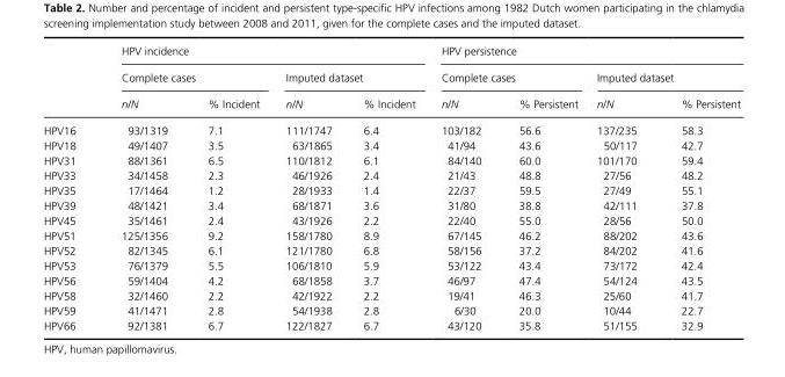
<table><thead><tr><td rowspan="3"></td><td colspan="4">HPV incidence</td><td colspan="4">HPV persistence</td></tr><tr><td colspan="2">Complete cases</td><td colspan="2">Imputed dataset</td><td colspan="2">Complete cases</td><td colspan="2">Imputed dataset</td></tr><tr><td>n/N</td><td>% Incident</td><td>n/N</td><td>% Incident</td><td>n/N</td><td>% Persistent</td><td>n/N</td><td>% Persistent</td></tr></thead><tbody><tr><td>HPV16</td><td>93/1319</td><td>7.1</td><td>111/1747</td><td>6.4</td><td>103/182</td><td>56.6</td><td>137/235</td><td>58.3</td></tr><tr><td>HPV18</td><td>49/1407</td><td>3.5</td><td>63/1865</td><td>3.4</td><td>41/94</td><td>43.6</td><td>50/117</td><td>42.7</td></tr><tr><td>HPV31</td><td>88/1361</td><td>6.5</td><td>110/1812</td><td>6.1</td><td>84/140</td><td>60.0</td><td>101/170</td><td>59.4</td></tr><tr><td>HPV33</td><td>34/1458</td><td>2.3</td><td>46/1926</td><td>2.4</td><td>21/43</td><td>48.8</td><td>27/56</td><td>48.2</td></tr><tr><td>HPV35</td><td>17/1464</td><td>1.2</td><td>28/1933</td><td>1.4</td><td>22/37</td><td>59.5</td><td>27/49</td><td>55.1</td></tr><tr><td>HPV39</td><td>48/1421</td><td>3.4</td><td>68/1871</td><td>3.6</td><td>31/80</td><td>38.8</td><td>42/111</td><td>37.8</td></tr><tr><td>HPV45</td><td>35/1461</td><td>2.4</td><td>43/1926</td><td>2.2</td><td>22/40</td><td>55.0</td><td>28/56</td><td>50.0</td></tr><tr><td>HPV51</td><td>125/1356</td><td>9.2</td><td>158/1780</td><td>8.9</td><td>67/145</td><td>46.2</td><td>88/202</td><td>43.6</td></tr><tr><td>HPV52</td><td>82/1345</td><td>6.1</td><td>121/1780</td><td>6.8</td><td>58/156</td><td>37.2</td><td>84/202</td><td>41.6</td></tr><tr><td>HPV53</td><td>76/1379</td><td>5.5</td><td>106/1810</td><td>5.9</td><td>53/122</td><td>43.4</td><td>73/172</td><td>42.4</td></tr><tr><td>HPV56</td><td>59/1404</td><td>4.2</td><td>68/1858</td><td>3.7</td><td>46/97</td><td>47.4</td><td>54/124</td><td>43.5</td></tr><tr><td>HPV58</td><td>32/1460</td><td>2.2</td><td>42/1922</td><td>2.2</td><td>19/41</td><td>46.3</td><td>25/60</td><td>41.7</td></tr><tr><td>HPV59</td><td>41/1471</td><td>2.8</td><td>54/1938</td><td>2.8</td><td>6/30</td><td>20.0</td><td>10/44</td><td>22.7</td></tr><tr><td>HPV66</td><td>92/1381</td><td>6.7</td><td>122/1827</td><td>6.7</td><td>43/120</td><td>35.8</td><td>51/155</td><td>32.9</td></tr></tbody></table>